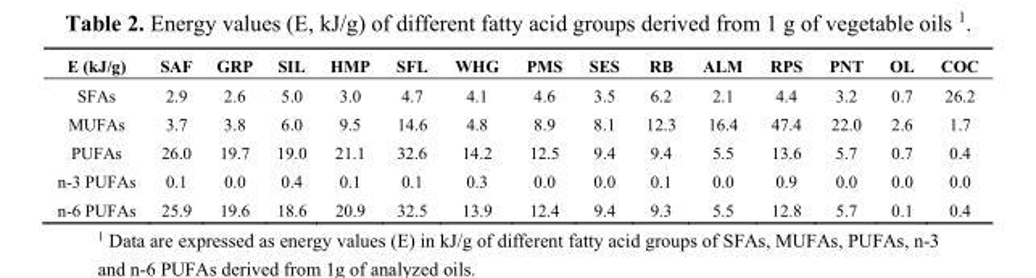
<table><thead><tr><td>E (kJ/g)</td><td>SAF</td><td>GRP</td><td>SIL</td><td>HMP</td><td>SFL</td><td>WHG</td><td>PMS</td><td>SES</td><td>RB</td><td>ALM</td><td>RPS</td><td>PNT</td><td>OL</td><td>COC</td></tr></thead><tbody><tr><td>SFAs</td><td>2.9</td><td>2.6</td><td>5.0</td><td>3.0</td><td>4.7</td><td>4.1</td><td>4.6</td><td>3.5</td><td>6.2</td><td>2.1</td><td>4.4</td><td>3.2</td><td>0.7</td><td>26.2</td></tr><tr><td>MUFAs</td><td>3.7</td><td>3.8</td><td>6.0</td><td>9.5</td><td>14.6</td><td>4.8</td><td>8.9</td><td>8.1</td><td>12.3</td><td>16.4</td><td>47.4</td><td>22.0</td><td>2.6</td><td>1.7</td></tr><tr><td>PUFAs</td><td>26.0</td><td>19.7</td><td>19.0</td><td>21.1</td><td>32.6</td><td>14.2</td><td>12.5</td><td>9.4</td><td>9.4</td><td>5.5</td><td>13.6</td><td>5.7</td><td>0.7</td><td>0.4</td></tr><tr><td>n-3 PUFAs</td><td>0.1</td><td>0.0</td><td>0.4</td><td>0.1</td><td>0.1</td><td>0.3</td><td>0.0</td><td>0.0</td><td>0.1</td><td>0.0</td><td>0.9</td><td>0.0</td><td>0.0</td><td>0.0</td></tr><tr><td>n-6 PUFAs</td><td>25.9</td><td>19.6</td><td>18.6</td><td>20.9</td><td>32.5</td><td>13.9</td><td>12.4</td><td>9.4</td><td>9.3</td><td>5.5</td><td>12.8</td><td>5.7</td><td>0.1</td><td>0.4</td></tr></tbody></table>